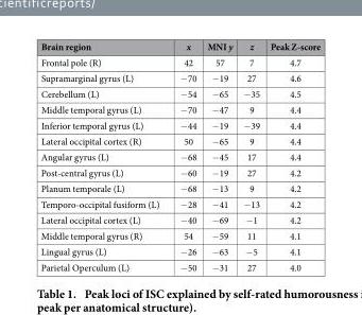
<table><thead><tr><td>Brain region</td><td>x</td><td>MNI y</td><td>z</td><td>Peak Z-score</td></tr></thead><tbody><tr><td>Frontal pole (R)</td><td>42</td><td>57</td><td>7</td><td>4.7</td></tr><tr><td>Supramarginal gyrus (L)</td><td>− 70</td><td>− 19</td><td>27</td><td>4.6</td></tr><tr><td>Cerebellum (L)</td><td>− 54</td><td>− 65</td><td>− 35</td><td>4.5</td></tr><tr><td>Middle temporal gyrus (L)</td><td>− 70</td><td>− 47</td><td>9</td><td>4.4</td></tr><tr><td>Inferior temporal gyrus (L)</td><td>− 44</td><td>− 19</td><td>− 39</td><td>4.4</td></tr><tr><td>Lateral occipital cortex (R)</td><td>50</td><td>− 65</td><td>9</td><td>4.4</td></tr><tr><td>Angular gyrus (L)</td><td>− 68</td><td>− 45</td><td>17</td><td>4.4</td></tr><tr><td>Post-central gyrus (L)</td><td>− 60</td><td>− 19</td><td>27</td><td>4.2</td></tr><tr><td>Planum temporale (L)</td><td>− 68</td><td>− 13</td><td>9</td><td>4.2</td></tr><tr><td>Temporo-occipital fusiform (L)</td><td>− 28</td><td>− 41</td><td>− 13</td><td>4.2</td></tr><tr><td>Lateral occipital cortex (L)</td><td>− 40</td><td>− 69</td><td>− 1</td><td>4.2</td></tr><tr><td>Middle temporal gyrus (R)</td><td>54</td><td>− 59</td><td>11</td><td>4.1</td></tr><tr><td>Lingual gyrus (L)</td><td>− 26</td><td>− 63</td><td>− 5</td><td>4.1</td></tr><tr><td>Parietal Operculum (L)</td><td>− 50</td><td>− 31</td><td>27</td><td>4.0</td></tr></tbody></table>